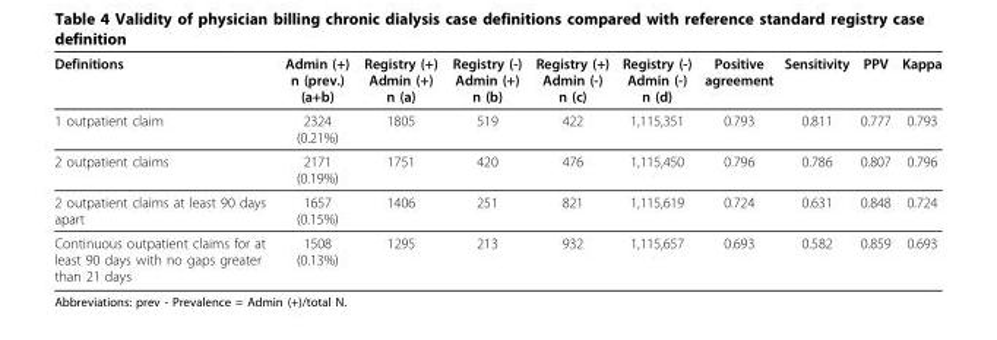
<table><thead><tr><td>Definitions</td><td>Admin (+) n (prev.) (a+b)</td><td>Registry (+) Admin (+) n (a)</td><td>Registry (-) Admin (+) n (b)</td><td>Registry (+) Admin (-) n (c)</td><td>Registry (-) Admin (-) n (d)</td><td>Positive agreement</td><td>Sensitivity</td><td>PPV</td><td>Kappa</td></tr></thead><tbody><tr><td>1 outpatient claim</td><td>2324 (0.21%)</td><td>1805</td><td>519</td><td>422</td><td>1,115,351</td><td>0.793</td><td>0.811</td><td>0.777</td><td>0.793</td></tr><tr><td>2 outpatient claims</td><td>2171 (0.19%)</td><td>1751</td><td>420</td><td>476</td><td>1,115,450</td><td>0.796</td><td>0.786</td><td>0.807</td><td>0.796</td></tr><tr><td>2 outpatient claims at least 90 days apart</td><td>1657 (0.15%)</td><td>1406</td><td>251</td><td>821</td><td>1,115,619</td><td>0.724</td><td>0.631</td><td>0.848</td><td>0.724</td></tr><tr><td>Continuous outpatient claims for at least 90 days with no gaps greater than 21 days</td><td>1508 (0.13%)</td><td>1295</td><td>213</td><td>932</td><td>1,115,657</td><td>0.693</td><td>0.582</td><td>0.859</td><td>0.693</td></tr></tbody></table>